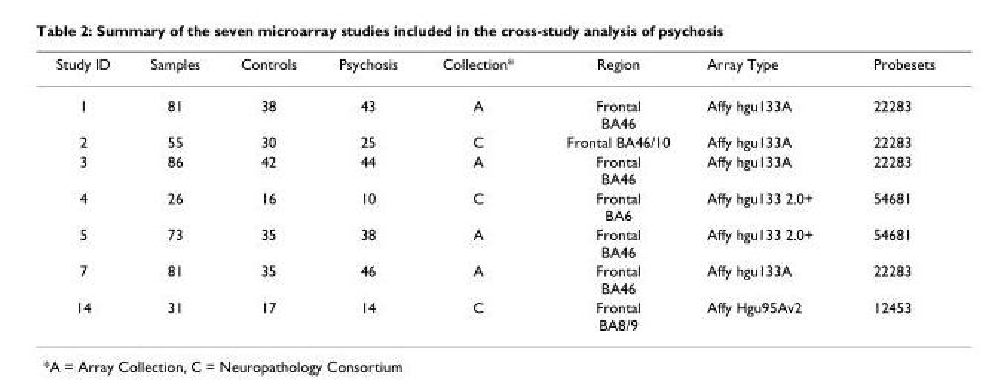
<table><thead><tr><td>Study ID</td><td>Samples</td><td>Controls</td><td>Psychosis</td><td>Collection*</td><td>Region</td><td>Array Type</td><td>Probesets</td></tr></thead><tbody><tr><td>1</td><td>81</td><td>38</td><td>43</td><td>A</td><td>Frontal BA46</td><td>Affy hgu133A</td><td>22283</td></tr><tr><td>2</td><td>55</td><td>30</td><td>25</td><td>C</td><td>Frontal BA46/10</td><td>Affy hgu133A</td><td>22283</td></tr><tr><td>3</td><td>86</td><td>42</td><td>44</td><td>A</td><td>Frontal BA46</td><td>Affy hgu133A</td><td>22283</td></tr><tr><td>4</td><td>26</td><td>16</td><td>10</td><td>C</td><td>Frontal BA6</td><td>Affy hgu133 2.0+</td><td>54681</td></tr><tr><td>5</td><td>73</td><td>35</td><td>38</td><td>A</td><td>Frontal BA46</td><td>Affy hgu133 2.0+</td><td>54681</td></tr><tr><td>7</td><td>81</td><td>35</td><td>46</td><td>A</td><td>Frontal BA46</td><td>Affy hgu133A</td><td>22283</td></tr><tr><td>14</td><td>31</td><td>17</td><td>14</td><td>C</td><td>Frontal BA8/9</td><td>Affy Hgu95Av2</td><td>12453</td></tr></tbody></table>